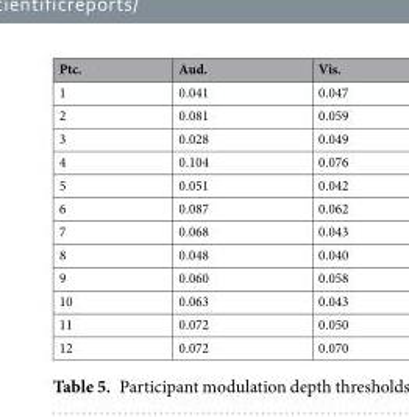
<table><thead><tr><td>Ptc.</td><td>Aud.</td><td>Vis.</td></tr></thead><tbody><tr><td>1</td><td>0.041</td><td>0.047</td></tr><tr><td>2</td><td>0.081</td><td>0.059</td></tr><tr><td>3</td><td>0.028</td><td>0.049</td></tr><tr><td>4</td><td>0.104</td><td>0.076</td></tr><tr><td>5</td><td>0.051</td><td>0.042</td></tr><tr><td>6</td><td>0.087</td><td>0.062</td></tr><tr><td>7</td><td>0.068</td><td>0.043</td></tr><tr><td>8</td><td>0.048</td><td>0.040</td></tr><tr><td>9</td><td>0.060</td><td>0.058</td></tr><tr><td>10</td><td>0.063</td><td>0.043</td></tr><tr><td>11</td><td>0.072</td><td>0.050</td></tr><tr><td>12</td><td>0.072</td><td>0.070</td></tr></tbody></table>